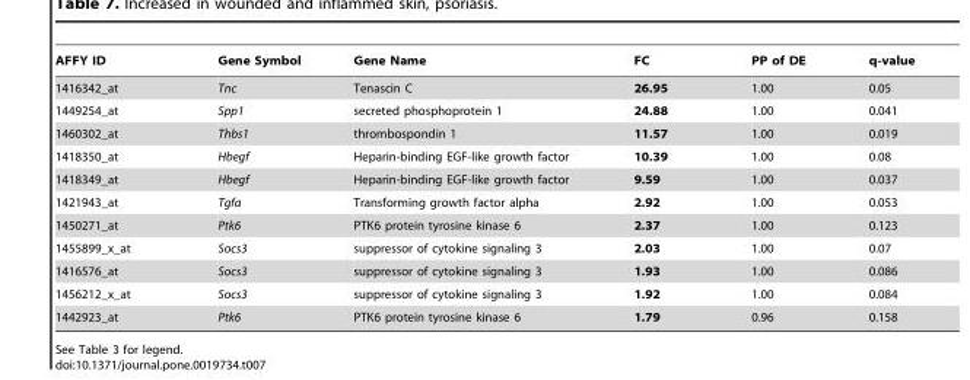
<table><thead><tr><td>AFFY ID</td><td>Gene Symbol</td><td>Gene Name</td><td>FC</td><td>PP of DE</td><td>q-value</td></tr></thead><tbody><tr><td>1416342_at</td><td>Tnc</td><td>Tenascin C</td><td>26.95</td><td>1.00</td><td>0.05</td></tr><tr><td>1449254_at</td><td>Spp1</td><td>secreted phosphoprotein 1</td><td>24.88</td><td>1.00</td><td>0.041</td></tr><tr><td>1460302_at</td><td>Thbs1</td><td>thrombospondin 1</td><td>11.57</td><td>1.00</td><td>0.019</td></tr><tr><td>1418350_at</td><td>Hbegf</td><td>Heparin-binding EGF-like growth factor</td><td>10.39</td><td>1.00</td><td>0.08</td></tr><tr><td>1418349_at</td><td>Hbegf</td><td>Heparin-binding EGF-like growth factor</td><td>9.59</td><td>1.00</td><td>0.037</td></tr><tr><td>1421943_at</td><td>Tgfa</td><td>Transforming growth factor alpha</td><td>2.92</td><td>1.00</td><td>0.053</td></tr><tr><td>1450271_at</td><td>Ptk6</td><td>PTK6 protein tyrosine kinase 6</td><td>2.37</td><td>1.00</td><td>0.123</td></tr><tr><td>1455899_x_at</td><td>Socs3</td><td>suppressor of cytokine signaling 3</td><td>2.03</td><td>1.00</td><td>0.07</td></tr><tr><td>1416576_at</td><td>Socs3</td><td>suppressor of cytokine signaling 3</td><td>1.93</td><td>1.00</td><td>0.086</td></tr><tr><td>1456212_x_at</td><td>Socs3</td><td>suppressor of cytokine signaling 3</td><td>1.92</td><td>1.00</td><td>0.084</td></tr><tr><td>1442923_at</td><td>Ptk6</td><td>PTK6 protein tyrosine kinase 6</td><td>1.79</td><td>0.96</td><td>0.158</td></tr></tbody></table>